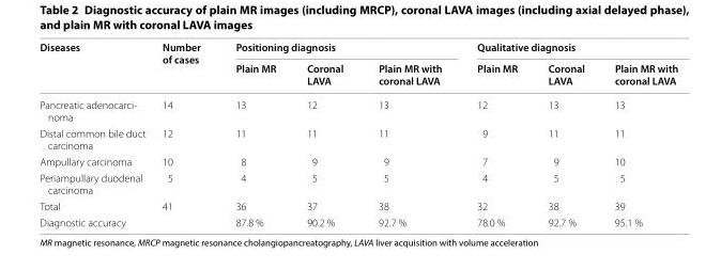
<table><thead><tr><td rowspan="2">Diseases</td><td rowspan="2">Number of cases</td><td colspan="3">Positioning diagnosis</td><td colspan="3">Qualitative diagnosis</td></tr><tr><td>Plain MR</td><td>Coronal LAVA</td><td>Plain MR with coronal LAVA</td><td>Plain MR</td><td>Coronal LAVA</td><td>Plain MR with coronal LAVA</td></tr></thead><tbody><tr><td>Pancreatic adenocarci- noma</td><td>14</td><td>13</td><td>12</td><td>13</td><td>12</td><td>13</td><td>13</td></tr><tr><td>Distal common bile duct carcinoma</td><td>12</td><td>11</td><td>11</td><td>11</td><td>9</td><td>11</td><td>11</td></tr><tr><td>Ampullary carcinoma</td><td>10</td><td>8</td><td>9</td><td>9</td><td>7</td><td>9</td><td>10</td></tr><tr><td>Periampullary duodenal carcinoma</td><td>5</td><td>4</td><td>5</td><td>5</td><td>4</td><td>5</td><td>5</td></tr><tr><td>Total</td><td>41</td><td>36</td><td>37</td><td>38</td><td>32</td><td>38</td><td>39</td></tr><tr><td>Diagnostic accuracy</td><td></td><td>87.8 %</td><td>90.2 %</td><td>92.7 %</td><td>78.0 %</td><td>92.7 %</td><td>95.1 %</td></tr></tbody></table>